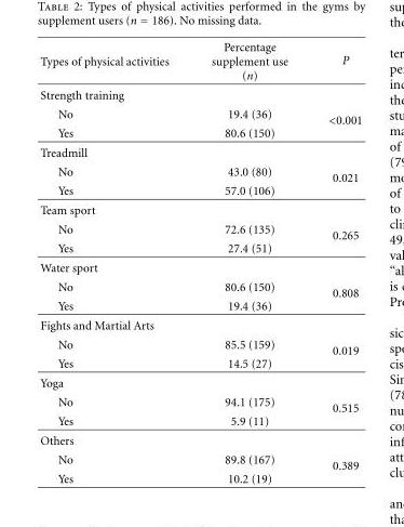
<table><thead><tr><td>Types of physical activities</td><td>Percentage supplement use (n)</td><td>P</td></tr></thead><tbody><tr><td colspan="3">Strength training</td></tr><tr><td>No</td><td>19.4 (36)</td><td rowspan="2">&lt;0.001</td></tr><tr><td>Yes</td><td>80.6 (150)</td></tr><tr><td colspan="3">Treadmill</td></tr><tr><td>No</td><td>43.0 (80)</td><td rowspan="2">0.021</td></tr><tr><td>Yes</td><td>57.0 (106)</td></tr><tr><td colspan="3">Team sport</td></tr><tr><td>No</td><td>72.6 (135)</td><td rowspan="2">0.265</td></tr><tr><td>Yes</td><td>27.4 (51)</td></tr><tr><td colspan="3">Water sport</td></tr><tr><td>No</td><td>80.6 (150)</td><td rowspan="2">0.808</td></tr><tr><td>Yes</td><td>19.4 (36)</td></tr><tr><td colspan="3">Fights and Martial Arts</td></tr><tr><td>No</td><td>85.5 (159)</td><td rowspan="2">0.019</td></tr><tr><td>Yes</td><td>14.5 (27)</td></tr><tr><td colspan="3">Yoga</td></tr><tr><td>No</td><td>94.1 (175)</td><td rowspan="2">0.515</td></tr><tr><td>Yes</td><td>5.9 (11)</td></tr><tr><td colspan="3">Others</td></tr><tr><td>No</td><td>89.8 (167)</td><td rowspan="2">0.389</td></tr><tr><td>Yes</td><td>10.2 (19)</td></tr></tbody></table>